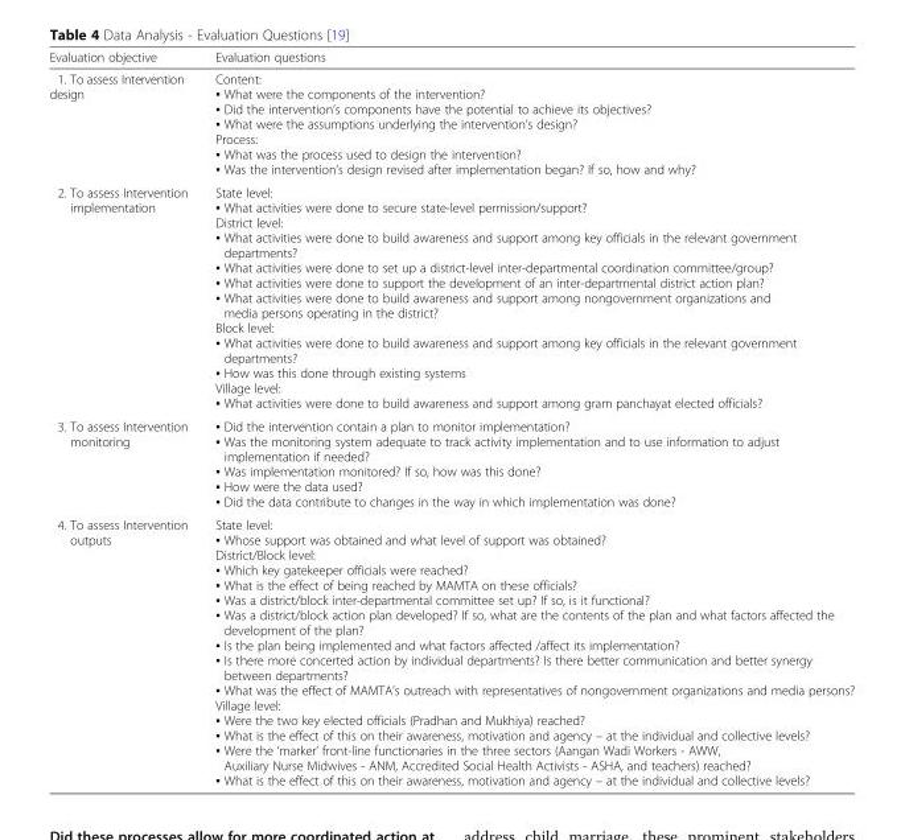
<table><thead><tr><td>Evaluation objective</td><td>Evaluation questions</td></tr></thead><tbody><tr><td>1. To assess Intervention design</td><td>Content: ▪ What were the components of the intervention? ▪ Did the intervention’s components have the potential to achieve its objectives? ▪ What were the assumptions underlying the intervention’s design? Process: ▪ What was the process used to design the intervention? ▪ Was the intervention’s design revised after implementation began? If so, how and why?</td></tr><tr><td>2. To assess Intervention implementation</td><td>State level: ▪ What activities were done to secure state-level permission/support? District level: ▪ What activities were done to build awareness and support among key officials in the relevant government departments? ▪ What activities were done to set up a district-level inter-departmental coordination committee/group? ▪ What activities were done to support the development of an inter-departmental district action plan? ▪ What activities were done to build awareness and support among nongovernment organizations and media persons operating in the district? Block level: ▪ What activities were done to build awareness and support among key officials in the relevant government departments? ▪ How was this done through existing systems Village level: ▪ What activities were done to build awareness and support among gram panchayat elected officials?</td></tr><tr><td>3. To assess Intervention monitoring</td><td>▪ Did the intervention contain a plan to monitor implementation? ▪ Was the monitoring system adequate to track activity implementation and to use information to adjust implementation if needed? ▪ Was implementation monitored? If so, how was this done? ▪ How were the data used? ▪ Did the data contribute to changes in the way in which implementation was done?</td></tr><tr><td>4. To assess Intervention outputs</td><td>State level: ▪ Whose support was obtained and what level of support was obtained? District/Block level: ▪ Which key gatekeeper officials were reached? ▪ What is the effect of being reached by MAMTA on these officials? ▪ Was a district/block inter-departmental committee set up? If so, is it functional? ▪ Was a district/block action plan developed? If so, what are the contents of the plan and what factors affected the development of the plan? ▪ Is the plan being implemented and what factors affected /affect its implementation? ▪ Is there more concerted action by individual departments? Is there better communication and better synergy between departments? ▪ What was the effect of MAMTA’s outreach with representatives of nongovernment organizations and media persons? Village level: ▪ Were the two key elected officials (Pradhan and Mukhiya) reached? ▪ What is the effect of this on their awareness, motivation and agency – at the individual and collective levels? ▪ Were the ‘marker’ front-line functionaries in the three sectors (Aangan Wadi Workers - AWW, Auxiliary Nurse Midwives - ANM, Accredited Social Health Activists - ASHA, and teachers) reached? ▪ What is the effect of this on their awareness, motivation and agency – at the individual and collective levels?</td></tr></tbody></table>